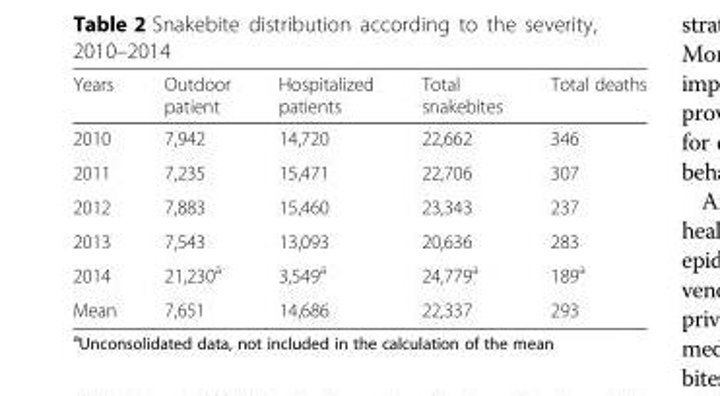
<table><thead><tr><td>Years</td><td>Outdoor patient</td><td>Hospitalized patients</td><td>Total snakebites</td><td>Total deaths</td></tr></thead><tbody><tr><td>2010</td><td>7,942</td><td>14,720</td><td>22,662</td><td>346</td></tr><tr><td>2011</td><td>7,235</td><td>15,471</td><td>22,706</td><td>307</td></tr><tr><td>2012</td><td>7,883</td><td>15,460</td><td>23,343</td><td>237</td></tr><tr><td>2013</td><td>7,543</td><td>13,093</td><td>20,636</td><td>283</td></tr><tr><td>2014</td><td>21,230<sup>a</sup></td><td>3,549<sup>a</sup></td><td>24,779<sup>a</sup></td><td>189<sup>a</sup></td></tr><tr><td>Mean</td><td>7,651</td><td>14,686</td><td>22,337</td><td>293</td></tr></tbody></table>